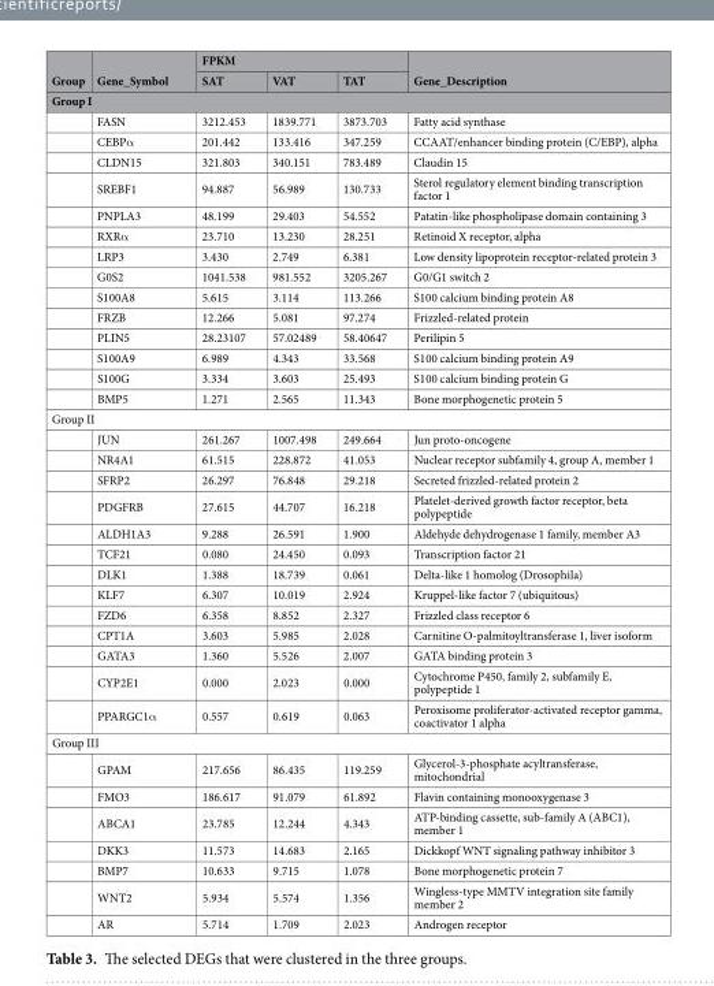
<table><thead><tr><td rowspan="2">Group</td><td rowspan="2">Gene_Symbol</td><td colspan="3">FPKM</td><td rowspan="2">Gene_Description</td></tr><tr><td>SAT</td><td>VAT</td><td>TAT</td></tr><tr><td colspan="6">Group I</td></tr></thead><tbody><tr><td></td><td>FASN</td><td>3212.453</td><td>1839.771</td><td>3873.703</td><td>Fatty acid synthase</td></tr><tr><td></td><td>CEBPα</td><td>201.442</td><td>133.416</td><td>347.259</td><td>CCAAT/enhancer binding protein (C/EBP), alpha</td></tr><tr><td></td><td>CLDN15</td><td>321.803</td><td>340.151</td><td>783.489</td><td>Claudin 15</td></tr><tr><td></td><td>SREBF1</td><td>94.887</td><td>56.989</td><td>130.733</td><td>Sterol regulatory element binding transcription factor 1</td></tr><tr><td></td><td>PNPLA3</td><td>48.199</td><td>29.403</td><td>54.552</td><td>Patatin-like phospholipase domain containing 3</td></tr><tr><td></td><td>RXRα</td><td>23.710</td><td>13.230</td><td>28.251</td><td>Retinoid X receptor, alpha</td></tr><tr><td></td><td>LRP3</td><td>3.430</td><td>2.749</td><td>6.381</td><td>Low density lipoprotein receptor-related protein 3</td></tr><tr><td></td><td>G0S2</td><td>1041.538</td><td>981.552</td><td>3205.267</td><td>G0/G1 switch 2</td></tr><tr><td></td><td>S100A8</td><td>5.615</td><td>3.114</td><td>113.266</td><td>S100 calcium binding protein A8</td></tr><tr><td></td><td>FRZB</td><td>12.266</td><td>5.081</td><td>97.274</td><td>Frizzled-related protein</td></tr><tr><td></td><td>PLIN5</td><td>28.23107</td><td>57.02489</td><td>58.40647</td><td>Perilipin 5</td></tr><tr><td></td><td>S100A9</td><td>6.989</td><td>4.343</td><td>33.568</td><td>S100 calcium binding protein A9</td></tr><tr><td></td><td>S100G</td><td>3.334</td><td>3.603</td><td>25.493</td><td>S100 calcium binding protein G</td></tr><tr><td></td><td>BMP5</td><td>1.271</td><td>2.565</td><td>11.343</td><td>Bone morphogenetic protein 5</td></tr><tr><td colspan="6">Group II</td></tr><tr><td></td><td>JUN</td><td>261.267</td><td>1007.498</td><td>249.664</td><td>Jun proto-oncogene</td></tr><tr><td></td><td>NR4A1</td><td>61.515</td><td>228.872</td><td>41.053</td><td>Nuclear receptor subfamily 4, group A, member 1</td></tr><tr><td></td><td>SFRP2</td><td>26.297</td><td>76.848</td><td>29.218</td><td>Secreted frizzled-related protein 2</td></tr><tr><td></td><td>PDGFRB</td><td>27.615</td><td>44.707</td><td>16.218</td><td>Platelet-derived growth factor receptor, beta polypeptide</td></tr><tr><td></td><td>ALDH1A3</td><td>9.288</td><td>26.591</td><td>1.900</td><td>Aldehyde dehydrogenase 1 family, member A3</td></tr><tr><td></td><td>TCF21</td><td>0.080</td><td>24.450</td><td>0.093</td><td>Transcription factor 21</td></tr><tr><td></td><td>DLK1</td><td>1.388</td><td>18.739</td><td>0.061</td><td>Delta-like 1 homolog (Drosophila)</td></tr><tr><td></td><td>KLF7</td><td>6.307</td><td>10.019</td><td>2.924</td><td>Kruppel-like factor 7 (ubiquitous)</td></tr><tr><td></td><td>FZD6</td><td>6.358</td><td>8.852</td><td>2.327</td><td>Frizzled class receptor 6</td></tr><tr><td></td><td>CPT1A</td><td>3.603</td><td>5.985</td><td>2.028</td><td>Carnitine O-palmitoyltransferase 1, liver isoform</td></tr><tr><td></td><td>GATA3</td><td>1.360</td><td>5.526</td><td>2.007</td><td>GATA binding protein 3</td></tr><tr><td></td><td>CYP2E1</td><td>0.000</td><td>2.023</td><td>0.000</td><td>Cytochrome P450, family 2, subfamily E, polypeptide 1</td></tr><tr><td></td><td>PPARGC1α</td><td>0.557</td><td>0.619</td><td>0.063</td><td>Peroxisome proliferator-activated receptor gamma, coactivator 1 alpha</td></tr><tr><td colspan="6">Group III</td></tr><tr><td></td><td>GPAM</td><td>217.656</td><td>86.435</td><td>119.259</td><td>Glycerol-3-phosphate acyltransferase, mitochondrial</td></tr><tr><td></td><td>FMO3</td><td>186.617</td><td>91.079</td><td>61.892</td><td>Flavin containing monooxygenase 3</td></tr><tr><td></td><td>ABCA1</td><td>23.785</td><td>12.244</td><td>4.343</td><td>ATP-binding cassette, sub-family A (ABC1), member 1</td></tr><tr><td></td><td>DKK3</td><td>11.573</td><td>14.683</td><td>2.165</td><td>Dickkopf WNT signaling pathway inhibitor 3</td></tr><tr><td></td><td>BMP7</td><td>10.633</td><td>9.715</td><td>1.078</td><td>Bone morphogenetic protein 7</td></tr><tr><td></td><td>WNT2</td><td>5.934</td><td>5.574</td><td>1.356</td><td>Wingless-type MMTV integration site family member 2</td></tr><tr><td></td><td>AR</td><td>5.714</td><td>1.709</td><td>2.023</td><td>Androgen receptor</td></tr></tbody></table>